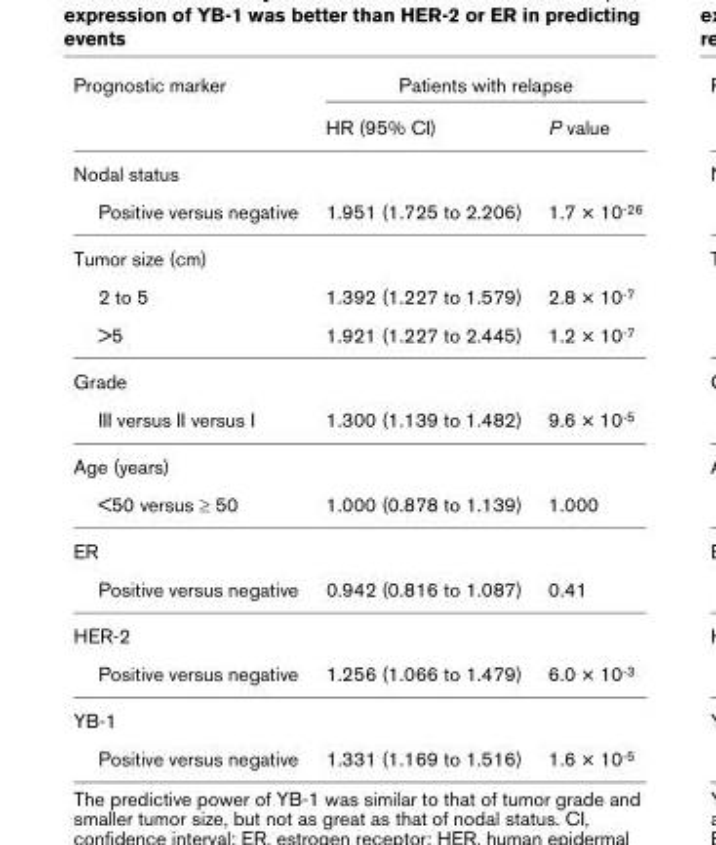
<table><thead><tr><td rowspan="2">Prognostic marker</td><td colspan="2">Patients with relapse</td></tr><tr><td>HR (95% CI)</td><td>P value</td></tr></thead><tbody><tr><td colspan="3">Nodal status</td></tr><tr><td>Positive versus negative</td><td>1.951 (1.725 to 2.206)</td><td>1.7 × 10<sup>-26</sup></td></tr><tr><td colspan="3">Tumor size (cm)</td></tr><tr><td>2 to 5</td><td>1.392 (1.227 to 1.579)</td><td>2.8 × 10<sup>-7</sup></td></tr><tr><td>&gt;5</td><td>1.921 (1.227 to 2.445)</td><td>1.2 × 10<sup>-7</sup></td></tr><tr><td colspan="3">Grade</td></tr><tr><td>III versus II versus I</td><td>1.300 (1.139 to 1.482)</td><td>9.6 × 10<sup>-5</sup></td></tr><tr><td colspan="3">Age (years)</td></tr><tr><td>&lt;50 versus ≥ 50</td><td>1.000 (0.878 to 1.139)</td><td>1.000</td></tr><tr><td colspan="3">ER</td></tr><tr><td>Positive versus negative</td><td>0.942 (0.816 to 1.087)</td><td>0.41</td></tr><tr><td colspan="3">HER-2</td></tr><tr><td>Positive versus negative</td><td>1.256 (1.066 to 1.479)</td><td>6.0 × 10<sup>-3</sup></td></tr><tr><td colspan="3">YB-1</td></tr><tr><td>Positive versus negative</td><td>1.331 (1.169 to 1.516)</td><td>1.6 × 10<sup>-5</sup></td></tr></tbody></table>